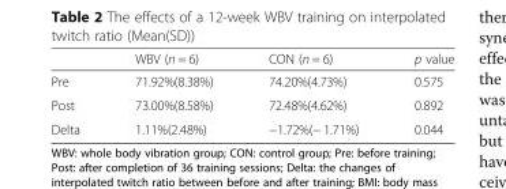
<table><thead><tr><td></td><td>WBV (n = 6)</td><td>CON (n = 6)</td><td>p value</td></tr></thead><tbody><tr><td>Pre</td><td>71.92%(8.38%)</td><td>74.20%(4.73%)</td><td>0.575</td></tr><tr><td>Post</td><td>73.00%(8.58%)</td><td>72.48%(4.62%)</td><td>0.892</td></tr><tr><td>Delta</td><td>1.11%(2.48%)</td><td>−1.72%(− 1.71%)</td><td>0.044</td></tr></tbody></table>